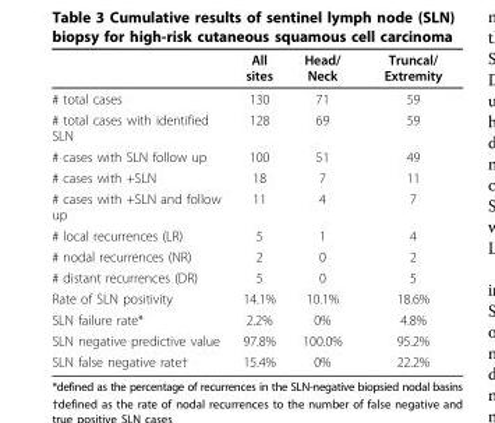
<table><thead><tr><td></td><td>All sites</td><td>Head/ Neck</td><td>Truncal/ Extremity</td></tr></thead><tbody><tr><td># total cases</td><td>130</td><td>71</td><td>59</td></tr><tr><td># total cases with identified SLN</td><td>128</td><td>69</td><td>59</td></tr><tr><td># cases with SLN follow up</td><td>100</td><td>51</td><td>49</td></tr><tr><td># cases with +SLN</td><td>18</td><td>7</td><td>11</td></tr><tr><td># cases with +SLN and follow up</td><td>11</td><td>4</td><td>7</td></tr><tr><td># local recurrences (LR)</td><td>5</td><td>1</td><td>4</td></tr><tr><td># nodal recurrences (NR)</td><td>2</td><td>0</td><td>2</td></tr><tr><td># distant recurrences (DR)</td><td>5</td><td>0</td><td>5</td></tr><tr><td>Rate of SLN positivity</td><td>14.1%</td><td>10.1%</td><td>18.6%</td></tr><tr><td>SLN failure rate*</td><td>2.2%</td><td>0%</td><td>4.8%</td></tr><tr><td>SLN negative predictive value</td><td>97.8%</td><td>100.0%</td><td>95.2%</td></tr><tr><td>SLN false negative rate†</td><td>15.4%</td><td>0%</td><td>22.2%</td></tr></tbody></table>